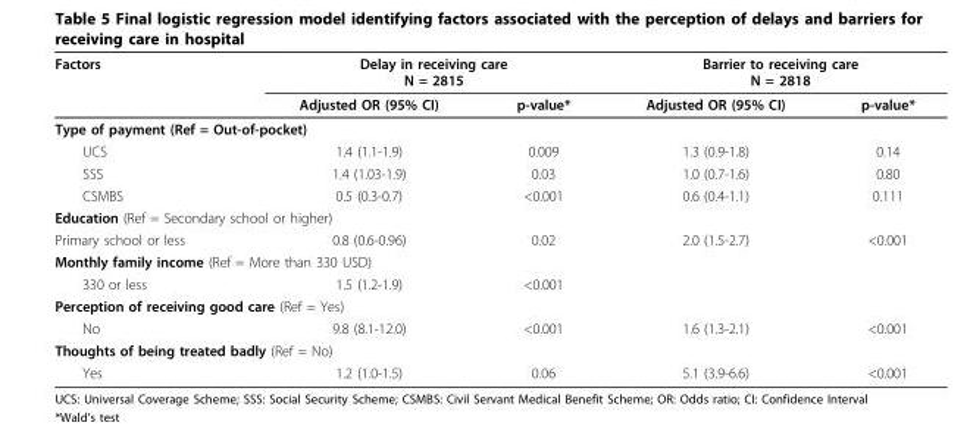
<table><thead><tr><td rowspan="2">Factors</td><td colspan="2">Delay in receiving care N = 2815</td><td colspan="2">Barrier to receiving care N = 2818</td></tr><tr><td>Adjusted OR (95% CI)</td><td>p-value*</td><td>Adjusted OR (95% CI)</td><td>p-value*</td></tr></thead><tbody><tr><td colspan="5">Type of payment (Ref = Out-of-pocket)</td></tr><tr><td>UCS</td><td>1.4 (1.1-1.9)</td><td>0.009</td><td>1.3 (0.9-1.8)</td><td>0.14</td></tr><tr><td>SSS</td><td>1.4 (1.03-1.9)</td><td>0.03</td><td>1.0 (0.7-1.6)</td><td>0.80</td></tr><tr><td>CSMBS</td><td>0.5 (0.3-0.7)</td><td>&lt;0.001</td><td>0.6 (0.4-1.1)</td><td>0.111</td></tr><tr><td colspan="5">Education (Ref = Secondary school or higher)</td></tr><tr><td>Primary school or less</td><td>0.8 (0.6-0.96)</td><td>0.02</td><td>2.0 (1.5-2.7)</td><td>&lt;0.001</td></tr><tr><td colspan="5">Monthly family income (Ref = More than 330 USD)</td></tr><tr><td>330 or less</td><td>1.5 (1.2-1.9)</td><td>&lt;0.001</td><td></td><td></td></tr><tr><td colspan="5">Perception of receiving good care (Ref = Yes)</td></tr><tr><td>No</td><td>9.8 (8.1-12.0)</td><td>&lt;0.001</td><td>1.6 (1.3-2.1)</td><td>&lt;0.001</td></tr><tr><td colspan="5">Thoughts of being treated badly (Ref = No)</td></tr><tr><td>Yes</td><td>1.2 (1.0-1.5)</td><td>0.06</td><td>5.1 (3.9-6.6)</td><td>&lt;0.001</td></tr></tbody></table>